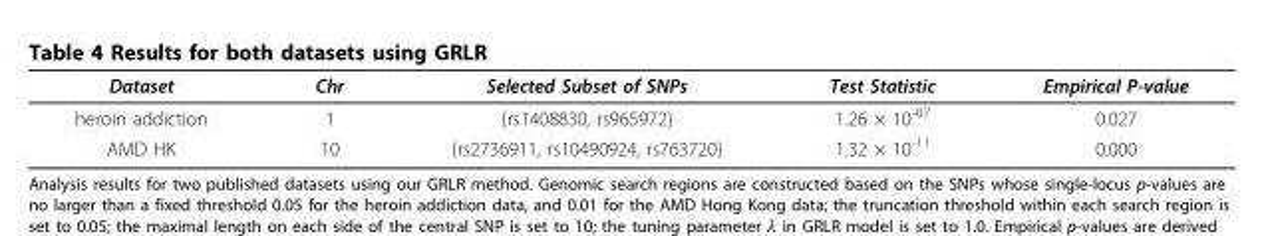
<table><thead><tr><td>Dataset</td><td>Chr</td><td>Selected Subset of SNPs</td><td>Test Statistic</td><td>Empirical P-value</td></tr></thead><tbody><tr><td>heroin addiction</td><td>1</td><td>{rs1408830, rs965972}</td><td>1.26 × 10<sup>-07</sup></td><td>0.027</td></tr><tr><td>AMD HK</td><td>10</td><td>{rs2736911, rs10490924, rs763720}</td><td>1.32 × 10<sup>-11</sup></td><td>0.000</td></tr></tbody></table>